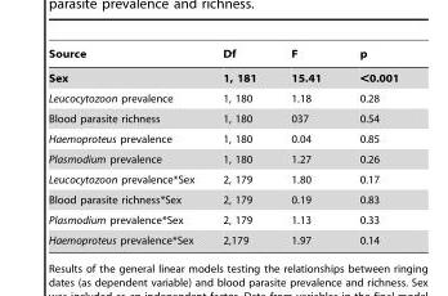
<table><thead><tr><td>Source</td><td>Df</td><td>F</td><td>p</td></tr></thead><tbody><tr><td>Sex</td><td>1, 181</td><td>15.41</td><td>&lt;0.001</td></tr><tr><td>Leucocytozoon prevalence</td><td>1, 180</td><td>1.18</td><td>0.28</td></tr><tr><td>Blood parasite richness</td><td>1, 180</td><td>037</td><td>0.54</td></tr><tr><td>Haemoproteus prevalence</td><td>1, 180</td><td>0.04</td><td>0.85</td></tr><tr><td>Plasmodium prevalence</td><td>1, 180</td><td>1.27</td><td>0.26</td></tr><tr><td>Leucocytozoon prevalence*Sex</td><td>2, 179</td><td>1.80</td><td>0.17</td></tr><tr><td>Blood parasite richness*Sex</td><td>2, 179</td><td>0.19</td><td>0.83</td></tr><tr><td>Plasmodium prevalence*Sex</td><td>2, 179</td><td>1.13</td><td>0.33</td></tr><tr><td>Haemoproteus prevalence*Sex</td><td>2,179</td><td>1.97</td><td>0.14</td></tr></tbody></table>